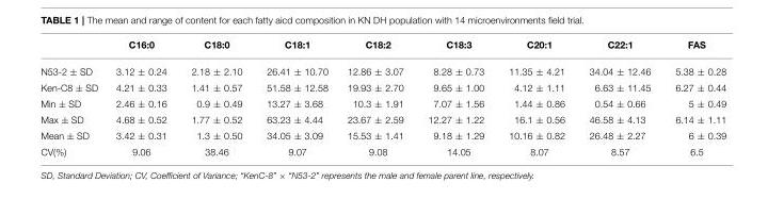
<table><thead><tr><td></td><td>C16:0</td><td>C18:0</td><td>C18:1</td><td>C18:2</td><td>C18:3</td><td>C20:1</td><td>C22:1</td><td>FAS</td></tr></thead><tbody><tr><td>N53-2 ± SD</td><td>3.12 ± 0.24</td><td>2.18 ± 2.10</td><td>26.41 ± 10.70</td><td>12.86 ± 3.07</td><td>8.28 ± 0.73</td><td>11.35 ± 4.21</td><td>34.04 ± 12.46</td><td>5.38 ± 0.28</td></tr><tr><td>Ken-C8 ± SD</td><td>4.21 ± 0.33</td><td>1.41 ± 0.57</td><td>51.58 ± 12.58</td><td>19.93 ± 2.70</td><td>9.65 ± 1.00</td><td>4.12 ± 1.11</td><td>6.63 ± 11.45</td><td>6.27 ± 0.44</td></tr><tr><td>Min ± SD</td><td>2.46 ± 0.16</td><td>0.9 ± 0.49</td><td>13.27 ± 3.68</td><td>10.3 ± 1.91</td><td>7.07 ± 1.56</td><td>1.44 ± 0.86</td><td>0.54 ± 0.66</td><td>5 ± 0.49</td></tr><tr><td>Max ± SD</td><td>4.68 ± 0.52</td><td>1.77 ± 0.52</td><td>63.23 ± 4.44</td><td>23.67 ± 2.59</td><td>12.27 ± 1.22</td><td>16.1 ± 0.56</td><td>46.58 ± 4.13</td><td>6.14 ± 1.11</td></tr><tr><td>Mean ± SD</td><td>3.42 ± 0.31</td><td>1.3 ± 0.50</td><td>34.05 ± 3.09</td><td>15.53 ± 1.41</td><td>9.18 ± 1.29</td><td>10.16 ± 0.82</td><td>26.48 ± 2.27</td><td>6 ± 0.39</td></tr><tr><td>CV(%)</td><td>9.06</td><td>38.46</td><td>9.07</td><td>9.08</td><td>14.05</td><td>8.07</td><td>8.57</td><td>6.5</td></tr></tbody></table>